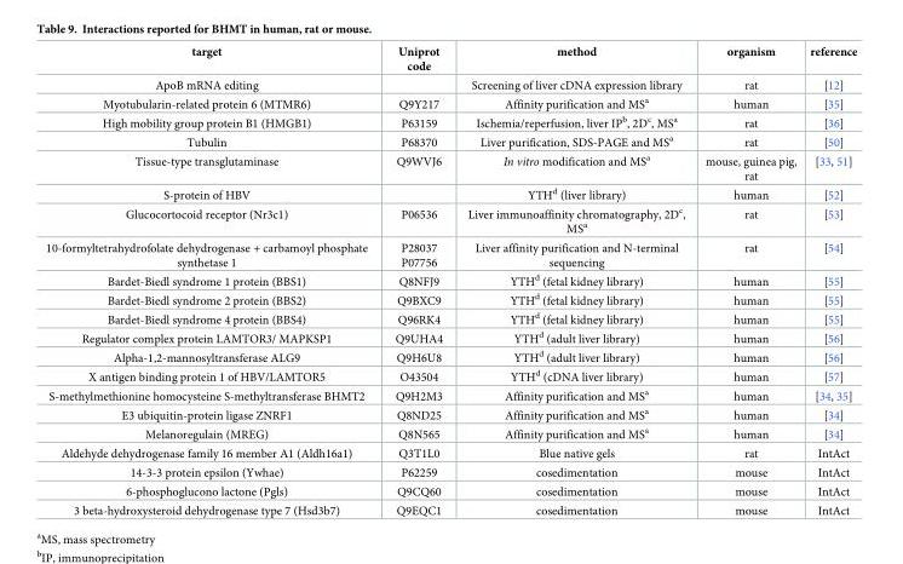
<table><thead><tr><td>target</td><td>Uniprot code</td><td>method</td><td>organism</td><td>reference</td></tr></thead><tbody><tr><td>ApoB mRNA editing</td><td></td><td>Screening of liver cDNA expression library</td><td>rat</td><td>[12]</td></tr><tr><td>Myotubularin-related protein 6 (MTMR6)</td><td>Q9Y217</td><td>Affinity purification and MS<sup>a</sup></td><td>human</td><td>[35]</td></tr><tr><td>High mobility group protein B1 (HMGB1)</td><td>P63159</td><td>Ischemia/reperfusion, liver IP<sup>b</sup>, 2D<sup>c</sup>, MS<sup>a</sup></td><td>rat</td><td>[36]</td></tr><tr><td>Tubulin</td><td>P68370</td><td>Liver purification, SDS-PAGE and MS<sup>a</sup></td><td>rat</td><td>[50]</td></tr><tr><td>Tissue-type transglutaminase</td><td>Q9WVJ6</td><td>In vitro modification and MS<sup>a</sup></td><td>mouse, guinea pig, rat</td><td>[33, 51]</td></tr><tr><td>S-protein of HBV</td><td></td><td>YTH<sup>d</sup> (liver library)</td><td>human</td><td>[52]</td></tr><tr><td>Glucocortocoid receptor (Nr3c1)</td><td>P06536</td><td>Liver immunoaffinity chromatography, 2D<sup>c</sup>, MS<sup>a</sup></td><td>rat</td><td>[53]</td></tr><tr><td>10-formyltetrahydrofolate dehydrogenase + carbamoyl phosphate synthetase 1</td><td>P28037 P07756</td><td>Liver affinity purification and N-terminal sequencing</td><td>rat</td><td>[54]</td></tr><tr><td>Bardet-Biedl syndrome 1 protein (BBS1)</td><td>Q8NFJ9</td><td>YTH<sup>d</sup> (fetal kidney library)</td><td>human</td><td>[55]</td></tr><tr><td>Bardet-Biedl syndrome 2 protein (BBS2)</td><td>Q9BXC9</td><td>YTH<sup>d</sup> (fetal kidney library)</td><td>human</td><td>[55]</td></tr><tr><td>Bardet-Biedl syndrome 4 protein (BBS4)</td><td>Q96RK4</td><td>YTH<sup>d</sup> (fetal kidney library)</td><td>human</td><td>[55]</td></tr><tr><td>Regulator complex protein LAMTOR3/ MAPKSP1</td><td>Q9UHA4</td><td>YTH<sup>d</sup> (adult liver library)</td><td>human</td><td>[56]</td></tr><tr><td>Alpha-1,2-mannosyltransferase ALG9</td><td>Q9H6U8</td><td>YTH<sup>d</sup> (adult liver library)</td><td>human</td><td>[56]</td></tr><tr><td>X antigen binding protein 1 of HBV/LAMTOR5</td><td>O43504</td><td>YTH<sup>d</sup> (cDNA liver library)</td><td>human</td><td>[57]</td></tr><tr><td>S-methylmethionine homocysteine S-methyltransferase BHMT2</td><td>Q9H2M3</td><td>Affinity purification and MS<sup>a</sup></td><td>human</td><td>[34, 35]</td></tr><tr><td>E3 ubiquitin-protein ligase ZNRF1</td><td>Q8ND25</td><td>Affinity purification and MS<sup>a</sup></td><td>human</td><td>[34]</td></tr><tr><td>Melanoregulain (MREG)</td><td>Q8N565</td><td>Affinity purification and MS<sup>a</sup></td><td>human</td><td>[34]</td></tr><tr><td>Aldehyde dehydrogenase family 16 member A1 (Aldh16a1)</td><td>Q3T1L0</td><td>Blue native gels</td><td>rat</td><td>IntAct</td></tr><tr><td>14-3-3 protein epsilon (Ywhae)</td><td>P62259</td><td>cosedimentation</td><td>mouse</td><td>IntAct</td></tr><tr><td>6-phosphoglucono lactone (Pgls)</td><td>Q9CQ60</td><td>cosedimentation</td><td>mouse</td><td>IntAct</td></tr><tr><td>3 beta-hydroxysteroid dehydrogenase type 7 (Hsd3b7)</td><td>Q9EQC1</td><td>cosedimentation</td><td>mouse</td><td>IntAct</td></tr></tbody></table>